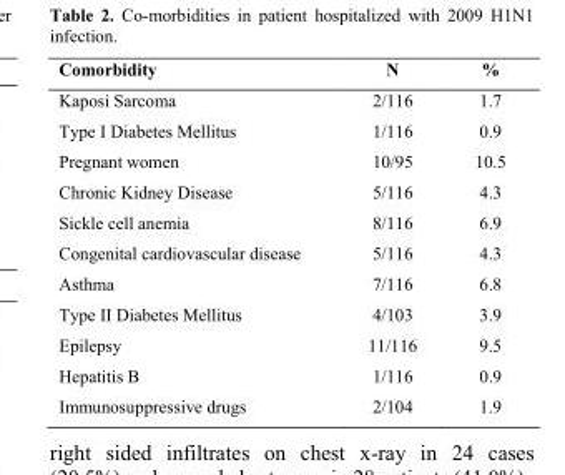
<table><thead><tr><td>Comorbidity</td><td>N</td><td>%</td></tr></thead><tbody><tr><td>Kaposi Sarcoma</td><td>2/116</td><td>1.7</td></tr><tr><td>Type I Diabetes Mellitus</td><td>1/116</td><td>0.9</td></tr><tr><td>Pregnant women</td><td>10/95</td><td>10.5</td></tr><tr><td>Chronic Kidney Disease</td><td>5/116</td><td>4.3</td></tr><tr><td>Sickle cell anemia</td><td>8/116</td><td>6.9</td></tr><tr><td>Congenital cardiovascular disease</td><td>5/116</td><td>4.3</td></tr><tr><td>Asthma</td><td>7/116</td><td>6.8</td></tr><tr><td>Type II Diabetes Mellitus</td><td>4/103</td><td>3.9</td></tr><tr><td>Epilepsy</td><td>11/116</td><td>9.5</td></tr><tr><td>Hepatitis B</td><td>1/116</td><td>0.9</td></tr><tr><td>Immunosuppressive drugs</td><td>2/104</td><td>1.9</td></tr></tbody></table>